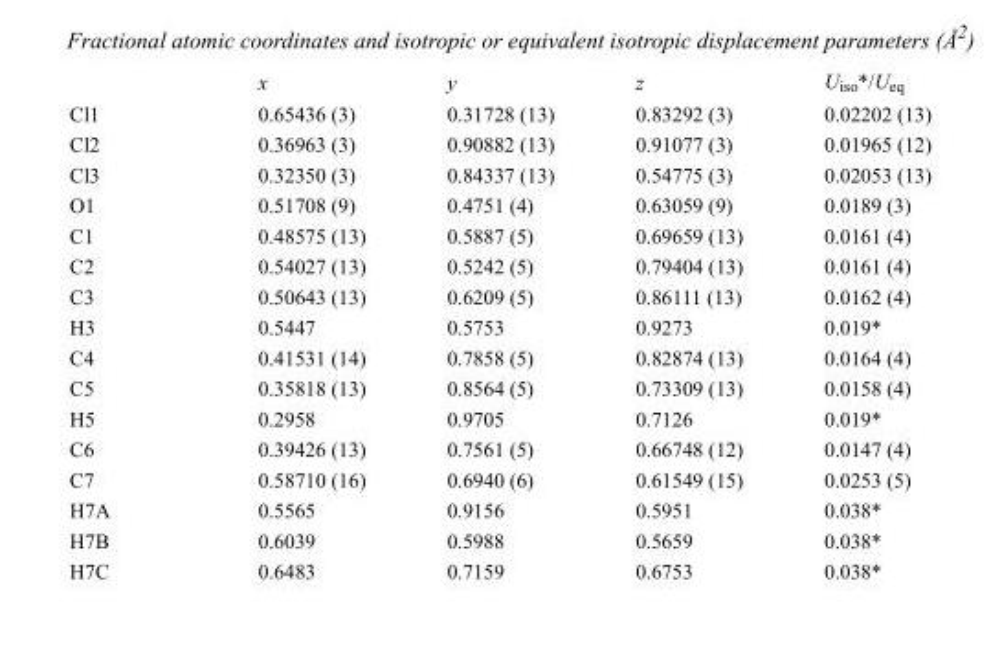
<table><thead><tr><td></td><td>x</td><td>y</td><td>z</td><td>U<sub>iso</sub>*/U<sub>eq</sub></td></tr></thead><tbody><tr><td>Cl1</td><td>0.65436 (3)</td><td>0.31728 (13)</td><td>0.83292 (3)</td><td>0.02202 (13)</td></tr><tr><td>Cl2</td><td>0.36963 (3)</td><td>0.90882 (13)</td><td>0.91077 (3)</td><td>0.01965 (12)</td></tr><tr><td>Cl3</td><td>0.32350 (3)</td><td>0.84337 (13)</td><td>0.54775 (3)</td><td>0.02053 (13)</td></tr><tr><td>O1</td><td>0.51708 (9)</td><td>0.4751 (4)</td><td>0.63059 (9)</td><td>0.0189 (3)</td></tr><tr><td>C1</td><td>0.48575 (13)</td><td>0.5887 (5)</td><td>0.69659 (13)</td><td>0.0161 (4)</td></tr><tr><td>C2</td><td>0.54027 (13)</td><td>0.5242 (5)</td><td>0.79404 (13)</td><td>0.0161 (4)</td></tr><tr><td>C3</td><td>0.50643 (13)</td><td>0.6209 (5)</td><td>0.86111 (13)</td><td>0.0162 (4)</td></tr><tr><td>H3</td><td>0.5447</td><td>0.5753</td><td>0.9273</td><td>0.019*</td></tr><tr><td>C4</td><td>0.41531 (14)</td><td>0.7858 (5)</td><td>0.82874 (13)</td><td>0.0164 (4)</td></tr><tr><td>C5</td><td>0.35818 (13)</td><td>0.8564 (5)</td><td>0.73309 (13)</td><td>0.0158 (4)</td></tr><tr><td>H5</td><td>0.2958</td><td>0.9705</td><td>0.7126</td><td>0.019*</td></tr><tr><td>C6</td><td>0.39426 (13)</td><td>0.7561 (5)</td><td>0.66748 (12)</td><td>0.0147 (4)</td></tr><tr><td>C7</td><td>0.58710 (16)</td><td>0.6940 (6)</td><td>0.61549 (15)</td><td>0.0253 (5)</td></tr><tr><td>H7A</td><td>0.5565</td><td>0.9156</td><td>0.5951</td><td>0.038*</td></tr><tr><td>H7B</td><td>0.6039</td><td>0.5988</td><td>0.5659</td><td>0.038*</td></tr><tr><td>H7C</td><td>0.6483</td><td>0.7159</td><td>0.6753</td><td>0.038*</td></tr></tbody></table>